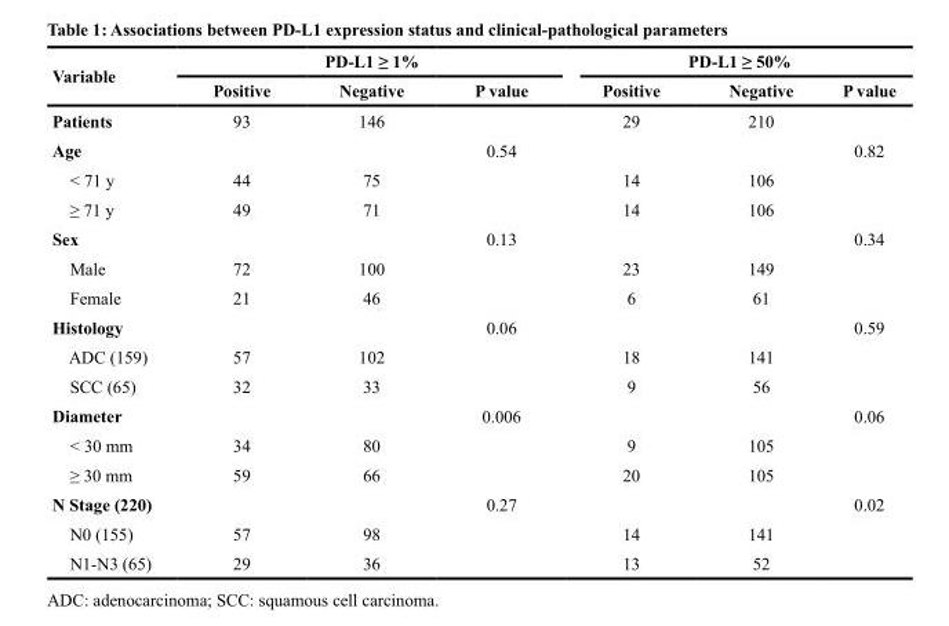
<table><thead><tr><td rowspan="2">Variable</td><td colspan="3">PD-L1 ≥ 1%</td><td colspan="3">PD-L1 ≥ 50%</td></tr><tr><td>Positive</td><td>Negative</td><td>P value</td><td>Positive</td><td>Negative</td><td>P value</td></tr></thead><tbody><tr><td>Patients</td><td>93</td><td>146</td><td></td><td>29</td><td>210</td><td></td></tr><tr><td>Age</td><td></td><td></td><td>0.54</td><td></td><td></td><td>0.82</td></tr><tr><td>&lt; 71 y</td><td>44</td><td>75</td><td></td><td>14</td><td>106</td><td></td></tr><tr><td>≥ 71 y</td><td>49</td><td>71</td><td></td><td>14</td><td>106</td><td></td></tr><tr><td>Sex</td><td></td><td></td><td>0.13</td><td></td><td></td><td>0.34</td></tr><tr><td>Male</td><td>72</td><td>100</td><td></td><td>23</td><td>149</td><td></td></tr><tr><td>Female</td><td>21</td><td>46</td><td></td><td>6</td><td>61</td><td></td></tr><tr><td>Histology</td><td></td><td></td><td>0.06</td><td></td><td></td><td>0.59</td></tr><tr><td>ADC (159)</td><td>57</td><td>102</td><td></td><td>18</td><td>141</td><td></td></tr><tr><td>SCC (65)</td><td>32</td><td>33</td><td></td><td>9</td><td>56</td><td></td></tr><tr><td>Diameter</td><td></td><td></td><td>0.006</td><td></td><td></td><td>0.06</td></tr><tr><td>&lt; 30 mm</td><td>34</td><td>80</td><td></td><td>9</td><td>105</td><td></td></tr><tr><td>≥ 30 mm</td><td>59</td><td>66</td><td></td><td>20</td><td>105</td><td></td></tr><tr><td>N Stage (220)</td><td></td><td></td><td>0.27</td><td></td><td></td><td>0.02</td></tr><tr><td>N0 (155)</td><td>57</td><td>98</td><td></td><td>14</td><td>141</td><td></td></tr><tr><td>N1-N3 (65)</td><td>29</td><td>36</td><td></td><td>13</td><td>52</td><td></td></tr></tbody></table>